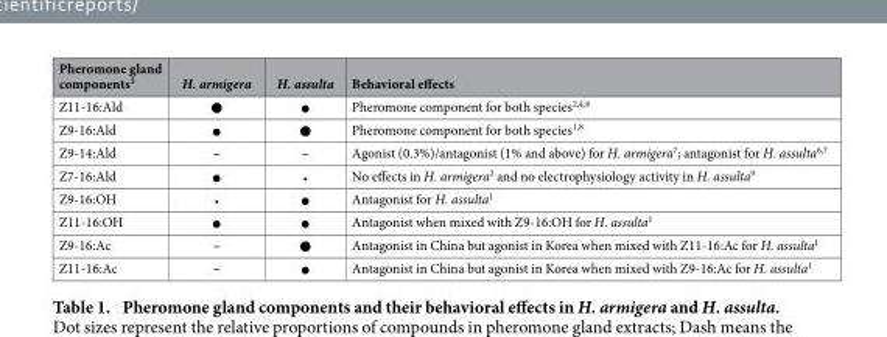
<table><thead><tr><td>Pheromone gland components<sup>3</sup></td><td>H. armigera</td><td>H. assulta</td><td>Behavioral effects</td></tr></thead><tbody><tr><td>Z11-16:Ald</td><td>●</td><td>●</td><td>Pheromone component for both species<sup>2</sup>,<sup>4</sup>,<sup>8</sup></td></tr><tr><td>Z9-16:Ald</td><td>●</td><td>●</td><td>Pheromone component for both species<sup>1</sup>,<sup>8</sup></td></tr><tr><td>Z9-14:Ald</td><td>–</td><td>–</td><td>Agonist (0.3%)/antagonist (1% and above) for H. armigera<sup>7</sup>; antagonist for H. assulta<sup>6</sup>,<sup>7</sup></td></tr><tr><td>Z7-16:Ald</td><td>●</td><td>•</td><td>No effects in H. armigera<sup>2</sup> and no electrophysiology activity in H. assulta<sup>9</sup></td></tr><tr><td>Z9-16:OH</td><td>•</td><td>●</td><td>Antagonist for H. assulta<sup>1</sup></td></tr><tr><td>Z11-16:OH</td><td>●</td><td>●</td><td>Antagonist when mixed with Z9-16:OH for H. assulta<sup>1</sup></td></tr><tr><td>Z9-16:Ac</td><td>–</td><td>●</td><td>Antagonist in China but agonist in Korea when mixed with Z11-16:Ac for H. assulta<sup>1</sup></td></tr><tr><td>Z11-16:Ac</td><td>–</td><td>●</td><td>Antagonist in China but agonist in Korea when mixed with Z9-16:Ac for H. assulta<sup>1</sup></td></tr></tbody></table>